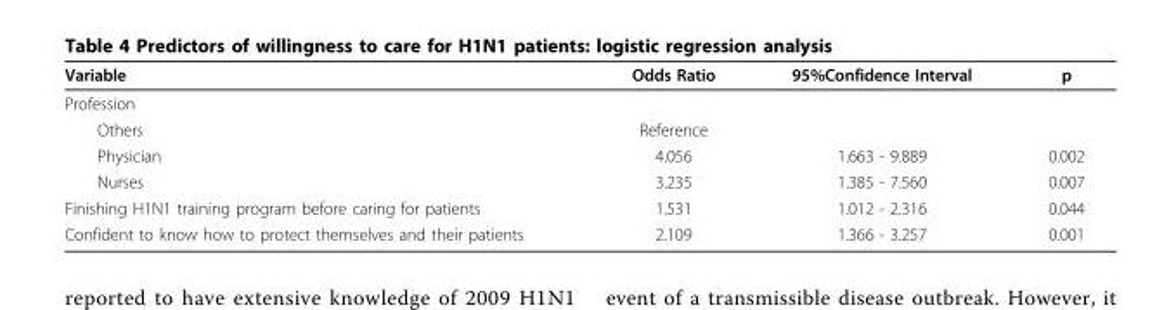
<table><thead><tr><td>Variable</td><td>Odds Ratio</td><td>95%Confidence Interval</td><td>p</td></tr></thead><tbody><tr><td colspan="4">Profession</td></tr><tr><td>Others</td><td>Reference</td><td></td><td></td></tr><tr><td>Physician</td><td>4.056</td><td>1.663 - 9.889</td><td>0.002</td></tr><tr><td>Nurses</td><td>3.235</td><td>1.385 - 7.560</td><td>0.007</td></tr><tr><td>Finishing H1N1 training program before caring for patients</td><td>1.531</td><td>1.012 - 2.316</td><td>0.044</td></tr><tr><td>Confident to know how to protect themselves and their patients</td><td>2.109</td><td>1.366 - 3.257</td><td>0.001</td></tr></tbody></table>